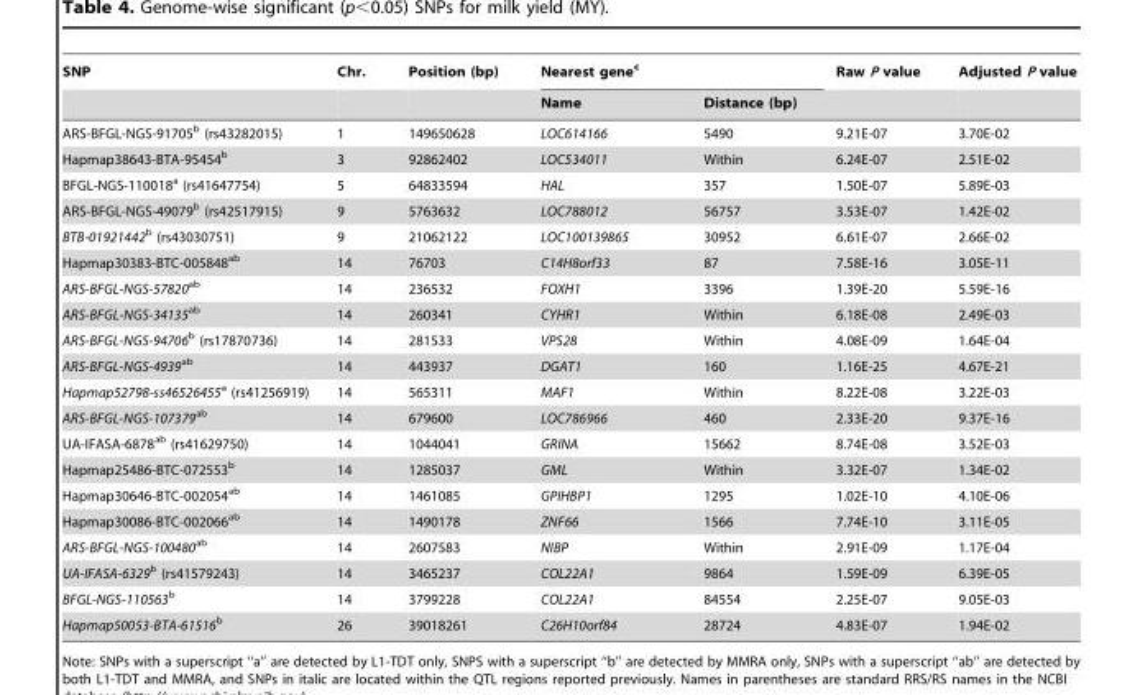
<table><thead><tr><td rowspan="2">SNP</td><td rowspan="2">Chr.</td><td rowspan="2">Position (bp)</td><td colspan="2">Nearest gene<sup>c</sup></td><td rowspan="2">Raw P value</td><td rowspan="2">Adjusted P value</td></tr><tr><td>Name</td><td>Distance (bp)</td></tr></thead><tbody><tr><td>ARS-BFGL-NGS-91705<sup>b</sup> (rs43282015)</td><td>1</td><td>149650628</td><td>LOC614166</td><td>5490</td><td>9.21E-07</td><td>3.70E-02</td></tr><tr><td>Hapmap38643-BTA-95454<sup>b</sup></td><td>3</td><td>92862402</td><td>LOC534011</td><td>Within</td><td>6.24E-07</td><td>2.51E-02</td></tr><tr><td>BFGL-NGS-110018<sup>a</sup> (rs41647754)</td><td>5</td><td>64833594</td><td>HAL</td><td>357</td><td>1.50E-07</td><td>5.89E-03</td></tr><tr><td>ARS-BFGL-NGS-49079<sup>b</sup> (rs42517915)</td><td>9</td><td>5763632</td><td>LOC788012</td><td>56757</td><td>3.53E-07</td><td>1.42E-02</td></tr><tr><td>BTB-01921442<sup>b</sup> (rs43030751)</td><td>9</td><td>21062122</td><td>LOC100139865</td><td>30952</td><td>6.61E-07</td><td>2.66E-02</td></tr><tr><td>Hapmap30383-BTC-005848<sup>ab</sup></td><td>14</td><td>76703</td><td>C14H8orf33</td><td>87</td><td>7.58E-16</td><td>3.05E-11</td></tr><tr><td>ARS-BFGL-NGS-57820<sup>ab</sup></td><td>14</td><td>236532</td><td>FOXH1</td><td>3396</td><td>1.39E-20</td><td>5.59E-16</td></tr><tr><td>ARS-BFGL-NGS-34135<sup>ab</sup></td><td>14</td><td>260341</td><td>CYHR1</td><td>Within</td><td>6.18E-08</td><td>2.49E-03</td></tr><tr><td>ARS-BFGL-NGS-94706<sup>b</sup> (rs17870736)</td><td>14</td><td>281533</td><td>VPS28</td><td>Within</td><td>4.08E-09</td><td>1.64E-04</td></tr><tr><td>ARS-BFGL-NGS-4939<sup>ab</sup></td><td>14</td><td>443937</td><td>DGAT1</td><td>160</td><td>1.16E-25</td><td>4.67E-21</td></tr><tr><td>Hapmap52798-ss46526455<sup>a</sup> (rs41256919)</td><td>14</td><td>565311</td><td>MAF1</td><td>Within</td><td>8.22E-08</td><td>3.22E-03</td></tr><tr><td>ARS-BFGL-NGS-107379<sup>ab</sup></td><td>14</td><td>679600</td><td>LOC786966</td><td>460</td><td>2.33E-20</td><td>9.37E-16</td></tr><tr><td>UA-IFASA-6878<sup>ab</sup> (rs41629750)</td><td>14</td><td>1044041</td><td>GRINA</td><td>15662</td><td>8.74E-08</td><td>3.52E-03</td></tr><tr><td>Hapmap25486-BTC-072553<sup>b</sup></td><td>14</td><td>1285037</td><td>GML</td><td>Within</td><td>3.32E-07</td><td>1.34E-02</td></tr><tr><td>Hapmap30646-BTC-002054<sup>ab</sup></td><td>14</td><td>1461085</td><td>GPIHBP1</td><td>1295</td><td>1.02E-10</td><td>4.10E-06</td></tr><tr><td>Hapmap30086-BTC-002066<sup>ab</sup></td><td>14</td><td>1490178</td><td>ZNF66</td><td>1566</td><td>7.74E-10</td><td>3.11E-05</td></tr><tr><td>ARS-BFGL-NGS-100480<sup>ab</sup></td><td>14</td><td>2607583</td><td>NIBP</td><td>Within</td><td>2.91E-09</td><td>1.17E-04</td></tr><tr><td>UA-IFASA-6329<sup>b</sup> (rs41579243)</td><td>14</td><td>3465237</td><td>COL22A1</td><td>9864</td><td>1.59E-09</td><td>6.39E-05</td></tr><tr><td>BFGL-NGS-110563<sup>b</sup></td><td>14</td><td>3799228</td><td>COL22A1</td><td>84554</td><td>2.25E-07</td><td>9.05E-03</td></tr><tr><td>Hapmap50053-BTA-61516<sup>b</sup></td><td>26</td><td>39018261</td><td>C26H10orf84</td><td>28724</td><td>4.83E-07</td><td>1.94E-02</td></tr></tbody></table>